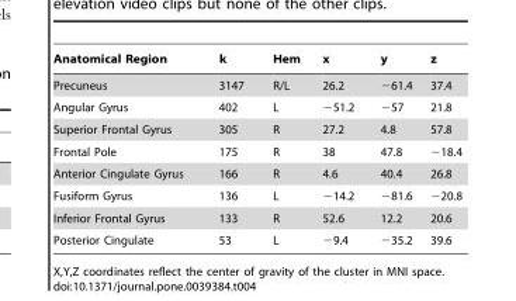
<table><thead><tr><td>Anatomical Region</td><td>k</td><td>Hem</td><td>x</td><td>y</td><td>z</td></tr></thead><tbody><tr><td>Precuneus</td><td>3147</td><td>R/L</td><td>26.2</td><td>−61.4</td><td>37.4</td></tr><tr><td>Angular Gyrus</td><td>402</td><td>L</td><td>−51.2</td><td>−57</td><td>21.8</td></tr><tr><td>Superior Frontal Gyrus</td><td>305</td><td>R</td><td>27.2</td><td>4.8</td><td>57.8</td></tr><tr><td>Frontal Pole</td><td>175</td><td>R</td><td>38</td><td>47.8</td><td>−18.4</td></tr><tr><td>Anterior Cingulate Gyrus</td><td>166</td><td>R</td><td>4.6</td><td>40.4</td><td>26.8</td></tr><tr><td>Fusiform Gyrus</td><td>136</td><td>L</td><td>−14.2</td><td>−81.6</td><td>−20.8</td></tr><tr><td>Inferior Frontal Gyrus</td><td>133</td><td>R</td><td>52.6</td><td>12.2</td><td>20.6</td></tr><tr><td>Posterior Cingulate</td><td>53</td><td>L</td><td>−9.4</td><td>−35.2</td><td>39.6</td></tr></tbody></table>